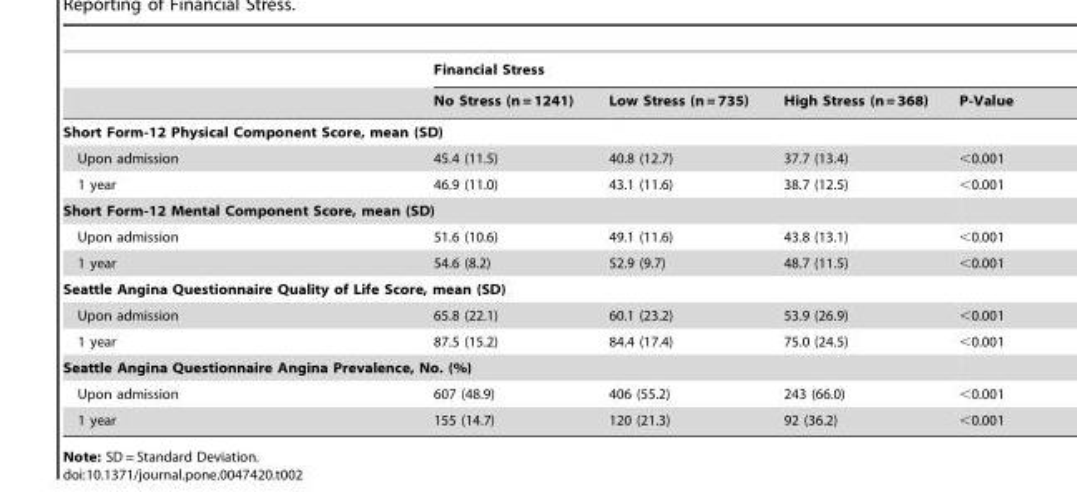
<table><thead><tr><td rowspan="2"></td><td colspan="4">Financial Stress</td></tr><tr><td>No Stress (n = 1241)</td><td>Low Stress (n = 735)</td><td>High Stress (n = 368)</td><td>P-Value</td></tr></thead><tbody><tr><td colspan="5">Short Form-12 Physical Component Score, mean (SD)</td></tr><tr><td>Upon admission</td><td>45.4 (11.5)</td><td>40.8 (12.7)</td><td>37.7 (13.4)</td><td>&lt;0.001</td></tr><tr><td>1 year</td><td>46.9 (11.0)</td><td>43.1 (11.6)</td><td>38.7 (12.5)</td><td>&lt;0.001</td></tr><tr><td colspan="5">Short Form-12 Mental Component Score, mean (SD)</td></tr><tr><td>Upon admission</td><td>51.6 (10.6)</td><td>49.1 (11.6)</td><td>43.8 (13.1)</td><td>&lt;0.001</td></tr><tr><td>1 year</td><td>54.6 (8.2)</td><td>52.9 (9.7)</td><td>48.7 (11.5)</td><td>&lt;0.001</td></tr><tr><td colspan="5">Seattle Angina Questionnaire Quality of Life Score, mean (SD)</td></tr><tr><td>Upon admission</td><td>65.8 (22.1)</td><td>60.1 (23.2)</td><td>53.9 (26.9)</td><td>&lt;0.001</td></tr><tr><td>1 year</td><td>87.5 (15.2)</td><td>84.4 (17.4)</td><td>75.0 (24.5)</td><td>&lt;0.001</td></tr><tr><td colspan="5">Seattle Angina Questionnaire Angina Prevalence, No. (%)</td></tr><tr><td>Upon admission</td><td>607 (48.9)</td><td>406 (55.2)</td><td>243 (66.0)</td><td>&lt;0.001</td></tr><tr><td>1 year</td><td>155 (14.7)</td><td>120 (21.3)</td><td>92 (36.2)</td><td>&lt;0.001</td></tr></tbody></table>